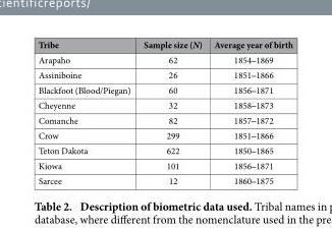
<table><thead><tr><td>Tribe</td><td>Sample size (N)</td><td>Average year of birth</td></tr></thead><tbody><tr><td>Arapaho</td><td>62</td><td>1854‒ 1869</td></tr><tr><td>Assiniboine</td><td>26</td><td>1851‒ 1866</td></tr><tr><td>Blackfoot (Blood/Piegan)</td><td>60</td><td>1856‒ 1871</td></tr><tr><td>Cheyenne</td><td>32</td><td>1858‒ 1873</td></tr><tr><td>Comanche</td><td>82</td><td>1857‒ 1872</td></tr><tr><td>Crow</td><td>299</td><td>1851‒ 1866</td></tr><tr><td>Teton Dakota</td><td>622</td><td>1850‒ 1865</td></tr><tr><td>Kiowa</td><td>101</td><td>1856‒ 1871</td></tr><tr><td>Sarcee</td><td>12</td><td>1860‒ 1875</td></tr></tbody></table>